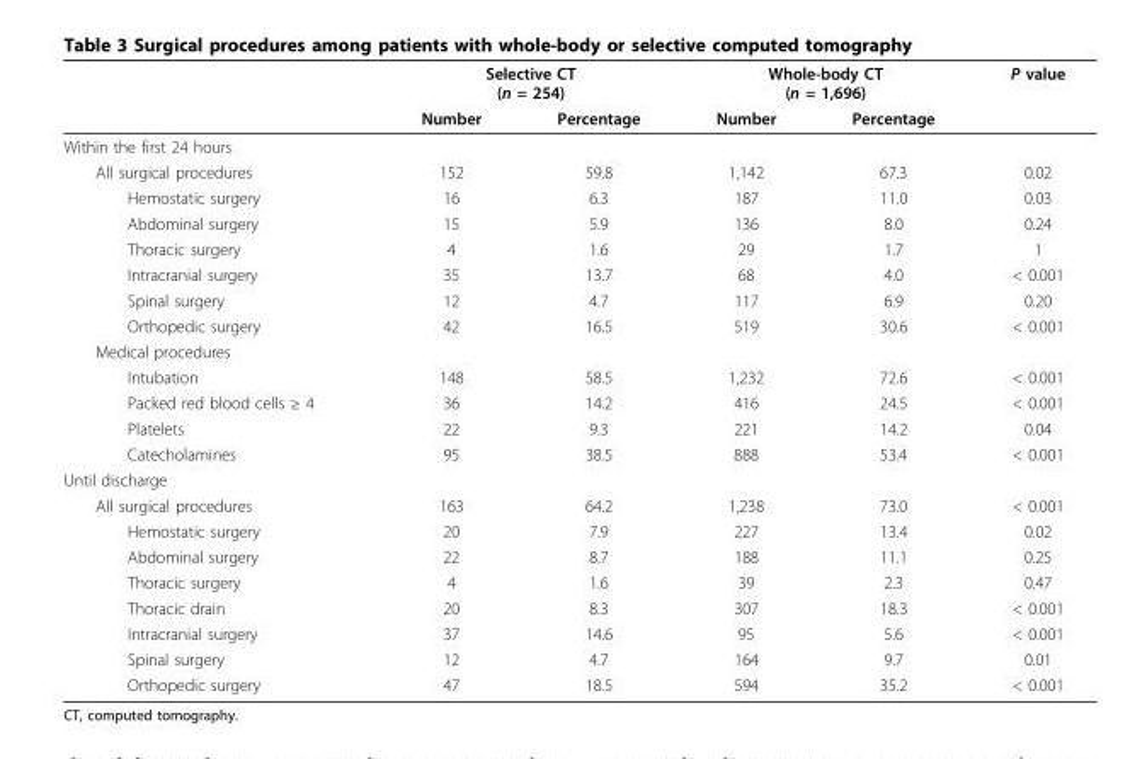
<table><thead><tr><td rowspan="2"></td><td colspan="2">Selective CT (n = 254)</td><td colspan="2">Whole-body CT (n = 1,696)</td><td rowspan="2">P value</td></tr><tr><td>Number</td><td>Percentage</td><td>Number</td><td>Percentage</td></tr></thead><tbody><tr><td colspan="6">Within the first 24 hours</td></tr><tr><td>All surgical procedures</td><td>152</td><td>59.8</td><td>1,142</td><td>67.3</td><td>0.02</td></tr><tr><td>Hemostatic surgery</td><td>16</td><td>6.3</td><td>187</td><td>11.0</td><td>0.03</td></tr><tr><td>Abdominal surgery</td><td>15</td><td>5.9</td><td>136</td><td>8.0</td><td>0.24</td></tr><tr><td>Thoracic surgery</td><td>4</td><td>1.6</td><td>29</td><td>1.7</td><td>1</td></tr><tr><td>Intracranial surgery</td><td>35</td><td>13.7</td><td>68</td><td>4.0</td><td>&lt; 0.001</td></tr><tr><td>Spinal surgery</td><td>12</td><td>4.7</td><td>117</td><td>6.9</td><td>0.20</td></tr><tr><td>Orthopedic surgery</td><td>42</td><td>16.5</td><td>519</td><td>30.6</td><td>&lt; 0.001</td></tr><tr><td colspan="6">Medical procedures</td></tr><tr><td>Intubation</td><td>148</td><td>58.5</td><td>1,232</td><td>72.6</td><td>&lt; 0.001</td></tr><tr><td>Packed red blood cells ≥ 4</td><td>36</td><td>14.2</td><td>416</td><td>24.5</td><td>&lt; 0.001</td></tr><tr><td>Platelets</td><td>22</td><td>9.3</td><td>221</td><td>14.2</td><td>0.04</td></tr><tr><td>Catecholamines</td><td>95</td><td>38.5</td><td>888</td><td>53.4</td><td>&lt; 0.001</td></tr><tr><td colspan="6">Until discharge</td></tr><tr><td>All surgical procedures</td><td>163</td><td>64.2</td><td>1,238</td><td>73.0</td><td>&lt; 0.001</td></tr><tr><td>Hemostatic surgery</td><td>20</td><td>7.9</td><td>227</td><td>13.4</td><td>0.02</td></tr><tr><td>Abdominal surgery</td><td>22</td><td>8.7</td><td>188</td><td>11.1</td><td>0.25</td></tr><tr><td>Thoracic surgery</td><td>4</td><td>1.6</td><td>39</td><td>2.3</td><td>0.47</td></tr><tr><td>Thoracic drain</td><td>20</td><td>8.3</td><td>307</td><td>18.3</td><td>&lt; 0.001</td></tr><tr><td>Intracranial surgery</td><td>37</td><td>14.6</td><td>95</td><td>5.6</td><td>&lt; 0.001</td></tr><tr><td>Spinal surgery</td><td>12</td><td>4.7</td><td>164</td><td>9.7</td><td>0.01</td></tr><tr><td>Orthopedic surgery</td><td>47</td><td>18.5</td><td>594</td><td>35.2</td><td>&lt; 0.001</td></tr></tbody></table>